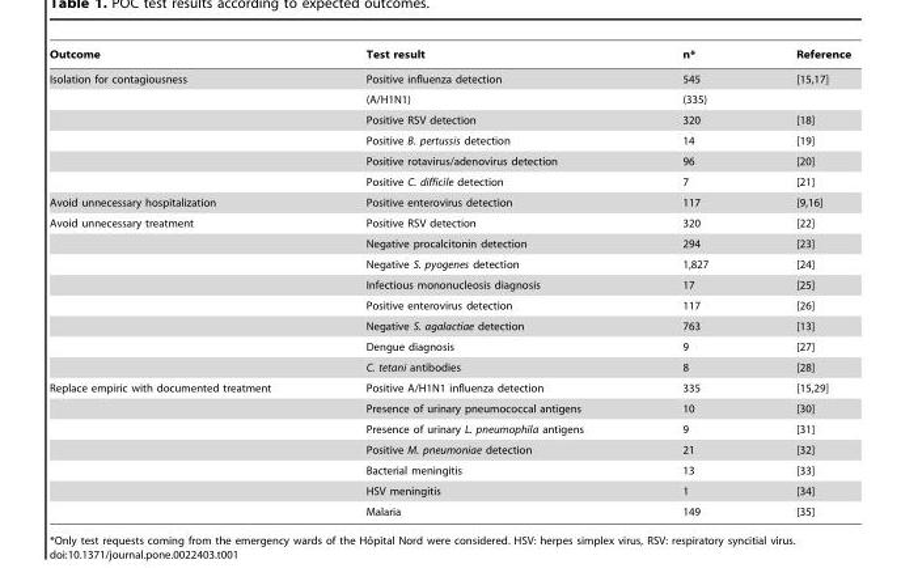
<table><thead><tr><td>Outcome</td><td>Test result</td><td>n*</td><td>Reference</td></tr></thead><tbody><tr><td rowspan="6">Isolation for contagiousness</td><td>Positive influenza detection</td><td>545</td><td>[15,17]</td></tr><tr><td>(A/H1N1)</td><td>(335)</td><td></td></tr><tr><td>Positive RSV detection</td><td>320</td><td>[18]</td></tr><tr><td>Positive B. pertussis detection</td><td>14</td><td>[19]</td></tr><tr><td>Positive rotavirus/adenovirus detection</td><td>96</td><td>[20]</td></tr><tr><td>Positive C. difficile detection</td><td>7</td><td>[21]</td></tr><tr><td>Avoid unnecessary hospitalization</td><td>Positive enterovirus detection</td><td>117</td><td>[9,16]</td></tr><tr><td rowspan="8">Avoid unnecessary treatment</td><td>Positive RSV detection</td><td>320</td><td>[22]</td></tr><tr><td>Negative procalcitonin detection</td><td>294</td><td>[23]</td></tr><tr><td>Negative S. pyogenes detection</td><td>1,827</td><td>[24]</td></tr><tr><td>Infectious mononucleosis diagnosis</td><td>17</td><td>[25]</td></tr><tr><td>Positive enterovirus detection</td><td>117</td><td>[26]</td></tr><tr><td>Negative S. agalactiae detection</td><td>763</td><td>[13]</td></tr><tr><td>Dengue diagnosis</td><td>9</td><td>[27]</td></tr><tr><td>C. tetani antibodies</td><td>8</td><td>[28]</td></tr><tr><td rowspan="7">Replace empiric with documented treatment</td><td>Positive A/H1N1 influenza detection</td><td>335</td><td>[15,29]</td></tr><tr><td>Presence of urinary pneumococcal antigens</td><td>10</td><td>[30]</td></tr><tr><td>Presence of urinary L. pneumophila antigens</td><td>9</td><td>[31]</td></tr><tr><td>Positive M. pneumoniae detection</td><td>21</td><td>[32]</td></tr><tr><td>Bacterial meningitis</td><td>13</td><td>[33]</td></tr><tr><td>HSV meningitis</td><td>1</td><td>[34]</td></tr><tr><td>Malaria</td><td>149</td><td>[35]</td></tr></tbody></table>